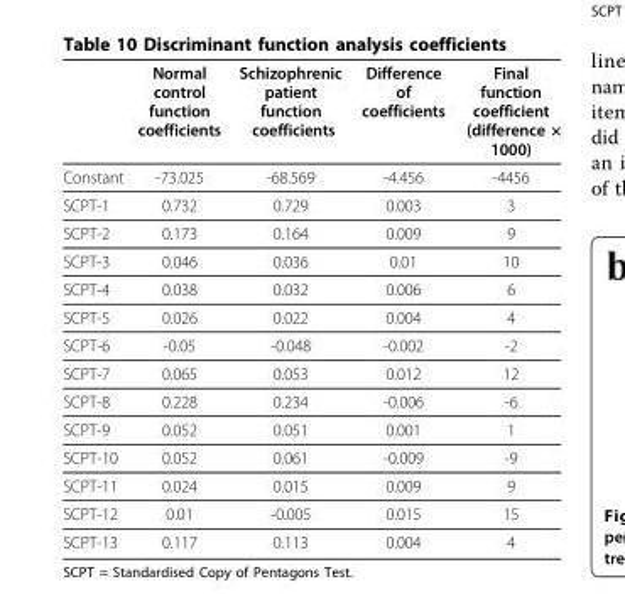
<table><thead><tr><td></td><td>Normal control function coefficients</td><td>Schizophrenic patient function coefficients</td><td>Difference of coefficients</td><td>Final function coefficient (difference × 1000)</td></tr></thead><tbody><tr><td>Constant</td><td>-73.025</td><td>-68.569</td><td>-4.456</td><td>-4456</td></tr><tr><td>SCPT-1</td><td>0.732</td><td>0.729</td><td>0.003</td><td>3</td></tr><tr><td>SCPT-2</td><td>0.173</td><td>0.164</td><td>0.009</td><td>9</td></tr><tr><td>SCPT-3</td><td>0.046</td><td>0.036</td><td>0.01</td><td>10</td></tr><tr><td>SCPT-4</td><td>0.038</td><td>0.032</td><td>0.006</td><td>6</td></tr><tr><td>SCPT-5</td><td>0.026</td><td>0.022</td><td>0.004</td><td>4</td></tr><tr><td>SCPT-6</td><td>-0.05</td><td>-0.048</td><td>-0.002</td><td>-2</td></tr><tr><td>SCPT-7</td><td>0.065</td><td>0.053</td><td>0.012</td><td>12</td></tr><tr><td>SCPT-8</td><td>0.228</td><td>0.234</td><td>-0.006</td><td>-6</td></tr><tr><td>SCPT-9</td><td>0.052</td><td>0.051</td><td>0.001</td><td>1</td></tr><tr><td>SCPT-10</td><td>0.052</td><td>0.061</td><td>-0.009</td><td>-9</td></tr><tr><td>SCPT-11</td><td>0.024</td><td>0.015</td><td>0.009</td><td>9</td></tr><tr><td>SCPT-12</td><td>0.01</td><td>-0.005</td><td>0.015</td><td>15</td></tr><tr><td>SCPT-13</td><td>0.117</td><td>0.113</td><td>0.004</td><td>4</td></tr></tbody></table>